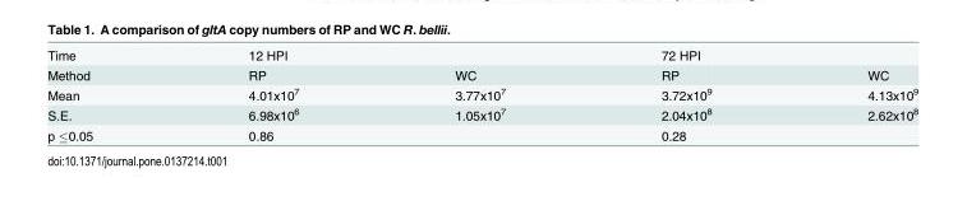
<table><tbody><tr><td>Time</td><td colspan="2">12 HPI</td><td colspan="2">72 HPI</td></tr><tr><td>Method</td><td>RP</td><td>WC</td><td>RP</td><td>WC</td></tr><tr><td>Mean</td><td>4.01x10<sup>7</sup></td><td>3.77x10<sup>7</sup></td><td>3.72x10<sup>9</sup></td><td>4.13x10<sup>9</sup></td></tr><tr><td>S.E.</td><td>6.98x10<sup>6</sup></td><td>1.05x10<sup>7</sup></td><td>2.04x10<sup>8</sup></td><td>2.62x10<sup>8</sup></td></tr><tr><td>p ≤0.05</td><td colspan="2">0.86</td><td colspan="2">0.28</td></tr></tbody></table>